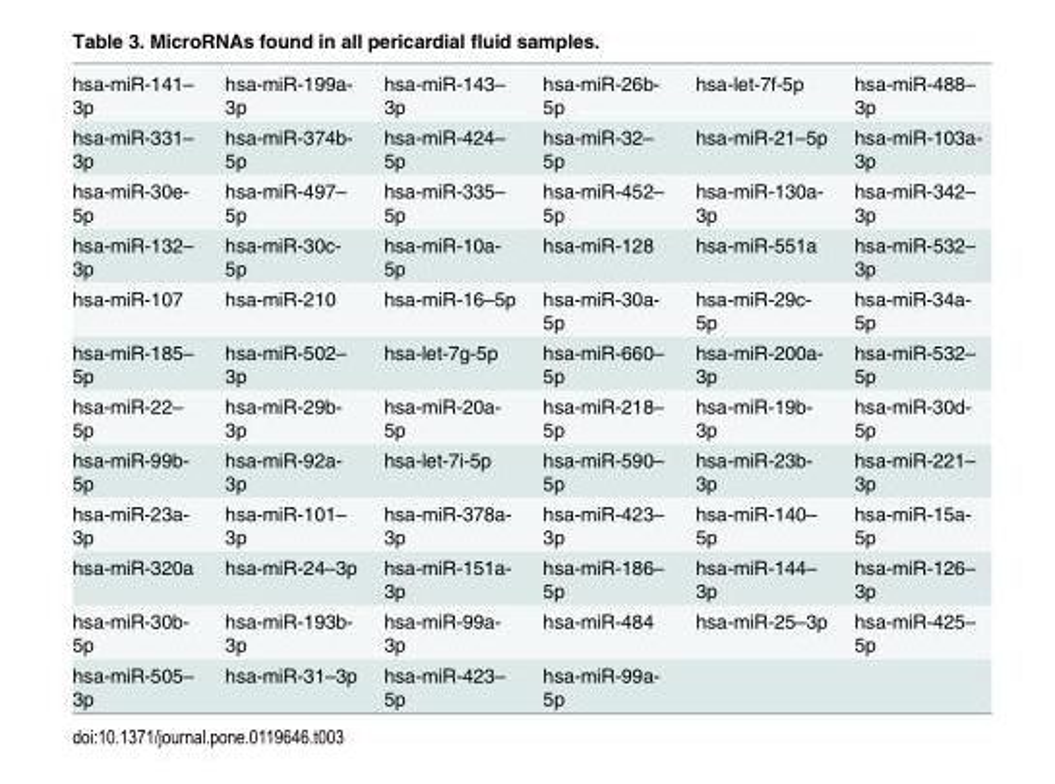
<table><tbody><tr><td>hsa-miR-141– 3p</td><td>hsa-miR-199a- 3p</td><td>hsa-miR-143– 3p</td><td>hsa-miR-26b- 5p</td><td>hsa-let-7f-5p</td><td>hsa-miR-488– 3p</td></tr><tr><td>hsa-miR-331– 3p</td><td>hsa-miR-374b- 5p</td><td>hsa-miR-424– 5p</td><td>hsa-miR-32– 5p</td><td>hsa-miR-21–5p</td><td>hsa-miR-103a- 3p</td></tr><tr><td>hsa-miR-30e- 5p</td><td>hsa-miR-497– 5p</td><td>hsa-miR-335– 5p</td><td>hsa-miR-452– 5p</td><td>hsa-miR-130a- 3p</td><td>hsa-miR-342– 3p</td></tr><tr><td>hsa-miR-132– 3p</td><td>hsa-miR-30c- 5p</td><td>hsa-miR-10a- 5p</td><td>hsa-miR-128</td><td>hsa-miR-551a</td><td>hsa-miR-532– 3p</td></tr><tr><td>hsa-miR-107</td><td>hsa-miR-210</td><td>hsa-miR-16–5p</td><td>hsa-miR-30a- 5p</td><td>hsa-miR-29c- 5p</td><td>hsa-miR-34a- 5p</td></tr><tr><td>hsa-miR-185– 5p</td><td>hsa-miR-502– 3p</td><td>hsa-let-7g-5p</td><td>hsa-miR-660– 5p</td><td>hsa-miR-200a- 3p</td><td>hsa-miR-532– 5p</td></tr><tr><td>hsa-miR-22– 5p</td><td>hsa-miR-29b- 3p</td><td>hsa-miR-20a- 5p</td><td>hsa-miR-218– 5p</td><td>hsa-miR-19b- 3p</td><td>hsa-miR-30d- 5p</td></tr><tr><td>hsa-miR-99b- 5p</td><td>hsa-miR-92a- 3p</td><td>hsa-let-7i-5p</td><td>hsa-miR-590– 5p</td><td>hsa-miR-23b- 3p</td><td>hsa-miR-221– 3p</td></tr><tr><td>hsa-miR-23a- 3p</td><td>hsa-miR-101– 3p</td><td>hsa-miR-378a- 3p</td><td>hsa-miR-423– 3p</td><td>hsa-miR-140– 5p</td><td>hsa-miR-15a- 5p</td></tr><tr><td>hsa-miR-320a</td><td>hsa-miR-24–3p</td><td>hsa-miR-151a- 3p</td><td>hsa-miR-186– 5p</td><td>hsa-miR-144– 3p</td><td>hsa-miR-126– 3p</td></tr><tr><td>hsa-miR-30b- 5p</td><td>hsa-miR-193b- 3p</td><td>hsa-miR-99a- 3p</td><td>hsa-miR-484</td><td>hsa-miR-25–3p</td><td>hsa-miR-425– 5p</td></tr><tr><td>hsa-miR-505– 3p</td><td>hsa-miR-31–3p</td><td>hsa-miR-423– 5p</td><td>hsa-miR-99a- 5p</td><td></td><td></td></tr></tbody></table>